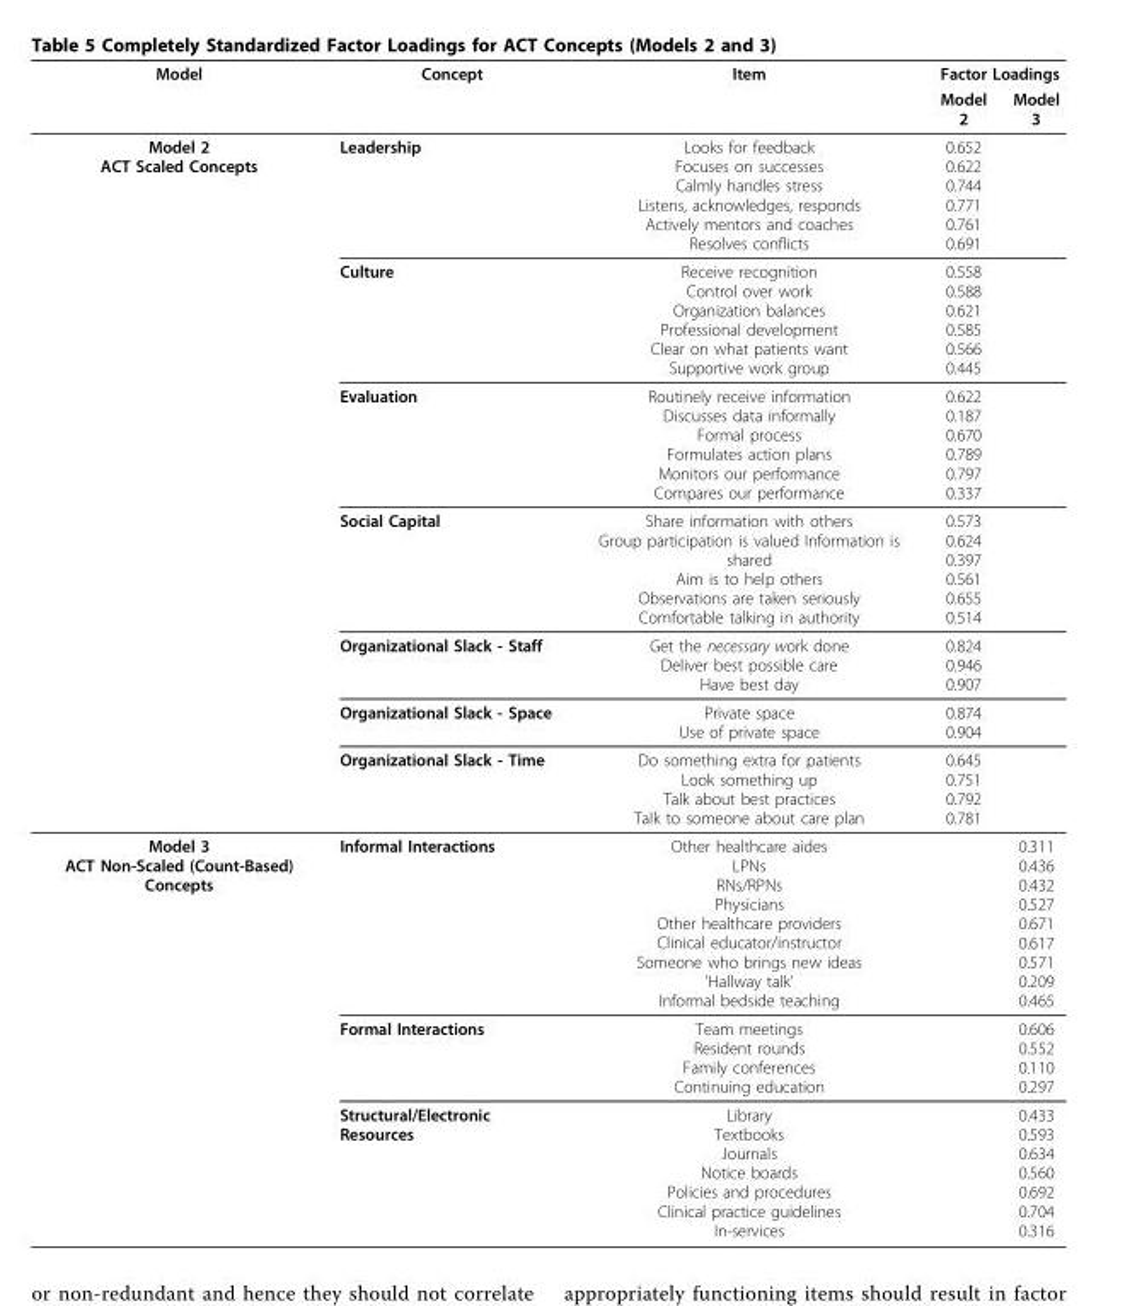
<table><thead><tr><td rowspan="2">Model</td><td rowspan="2">Concept</td><td rowspan="2">Item</td><td colspan="2">Factor Loadings</td></tr><tr><td>Model 2</td><td>Model 3</td></tr></thead><tbody><tr><td rowspan="7">Model 2 ACT Scaled Concepts</td><td>Leadership</td><td>Looks for feedback Focuses on successes Calmly handles stress Listens, acknowledges, responds Actively mentors and coaches Resolves conflicts</td><td>0.652 0.622 0.744 0.771 0.761 0.691</td><td></td></tr><tr><td>Culture</td><td>Receive recognition Control over work Organization balances Professional development Clear on what patients want Supportive work group</td><td>0.558 0.588 0.621 0.585 0.566 0.445</td><td></td></tr><tr><td>Evaluation</td><td>Routinely receive information Discusses data informally Formal process Formulates action plans Monitors our performance Compares our performance</td><td>0.622 0.187 0.670 0.789 0.797 0.337</td><td></td></tr><tr><td>Social Capital</td><td>Share information with others Group participation is valued Information is shared Aim is to help others Observations are taken seriously Comfortable talking in authority</td><td>0.573 0.624 0.397 0.561 0.655 0.514</td><td></td></tr><tr><td>Organizational Slack - Staff</td><td>Get the necessary work done Deliver best possible care Have best day</td><td>0.824 0.946 0.907</td><td></td></tr><tr><td>Organizational Slack - Space</td><td>Private space Use of private space</td><td>0.874 0.904</td><td></td></tr><tr><td>Organizational Slack - Time</td><td>Do something extra for patients Look something up Talk about best practices Talk to someone about care plan</td><td>0.645 0.751 0.792 0.781</td><td></td></tr><tr><td rowspan="3">Model 3 ACT Non-Scaled (Count-Based) Concepts</td><td>Informal Interactions</td><td>Other healthcare aides LPNs RNs/RPNs Physicians Other healthcare providers Clinical educator/instructor Someone who brings new ideas ’Hallway talk’ Informal bedside teaching</td><td></td><td>0.311 0.436 0.432 0.527 0.671 0.617 0.571 0.209 0.465</td></tr><tr><td>Formal Interactions</td><td>Team meetings Resident rounds Family conferences Continuing education</td><td></td><td>0.606 0.552 0.110 0.297</td></tr><tr><td>Structural/Electronic Resources</td><td>Library Textbooks Journals Notice boards Policies and procedures Clinical practice guidelines In-services</td><td></td><td>0.433 0.593 0.634 0.560 0.692 0.704 0.316</td></tr></tbody></table>